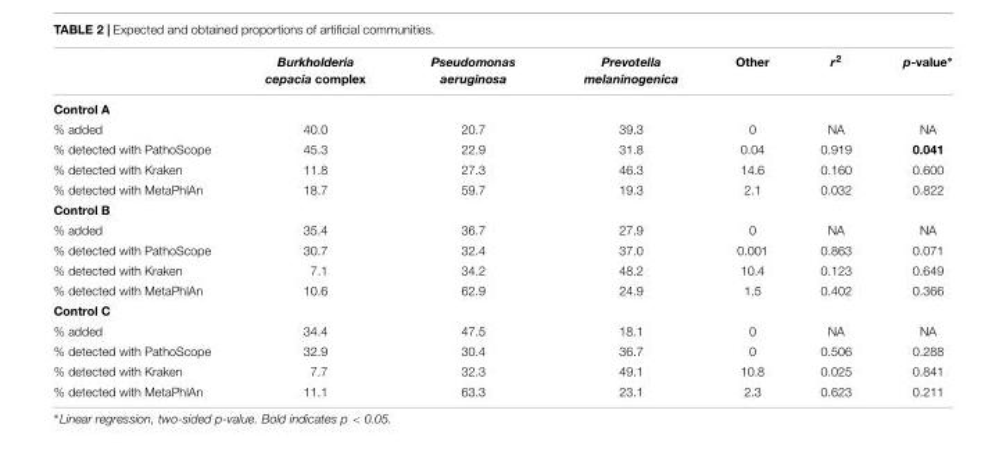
<table><thead><tr><td></td><td>Burkholderia cepacia complex</td><td>Pseudomonas aeruginosa</td><td>Prevotella melaninogenica</td><td>Other</td><td>r<sup>2</sup></td><td>p-value∗</td></tr></thead><tbody><tr><td colspan="7">Control A</td></tr><tr><td>% added</td><td>40.0</td><td>20.7</td><td>39.3</td><td>0</td><td>NA</td><td>NA</td></tr><tr><td>% detected with PathoScope</td><td>45.3</td><td>22.9</td><td>31.8</td><td>0.04</td><td>0.919</td><td>0.041</td></tr><tr><td>% detected with Kraken</td><td>11.8</td><td>27.3</td><td>46.3</td><td>14.6</td><td>0.160</td><td>0.600</td></tr><tr><td>% detected with MetaPhlAn</td><td>18.7</td><td>59.7</td><td>19.3</td><td>2.1</td><td>0.032</td><td>0.822</td></tr><tr><td colspan="7">Control B</td></tr><tr><td>% added</td><td>35.4</td><td>36.7</td><td>27.9</td><td>0</td><td>NA</td><td>NA</td></tr><tr><td>% detected with PathoScope</td><td>30.7</td><td>32.4</td><td>37.0</td><td>0.001</td><td>0.863</td><td>0.071</td></tr><tr><td>% detected with Kraken</td><td>7.1</td><td>34.2</td><td>48.2</td><td>10.4</td><td>0.123</td><td>0.649</td></tr><tr><td>% detected with MetaPhlAn</td><td>10.6</td><td>62.9</td><td>24.9</td><td>1.5</td><td>0.402</td><td>0.366</td></tr><tr><td colspan="7">Control C</td></tr><tr><td>% added</td><td>34.4</td><td>47.5</td><td>18.1</td><td>0</td><td>NA</td><td>NA</td></tr><tr><td>% detected with PathoScope</td><td>32.9</td><td>30.4</td><td>36.7</td><td>0</td><td>0.506</td><td>0.288</td></tr><tr><td>% detected with Kraken</td><td>7.7</td><td>32.3</td><td>49.1</td><td>10.8</td><td>0.025</td><td>0.841</td></tr><tr><td>% detected with MetaPhlAn</td><td>11.1</td><td>63.3</td><td>23.1</td><td>2.3</td><td>0.623</td><td>0.211</td></tr></tbody></table>